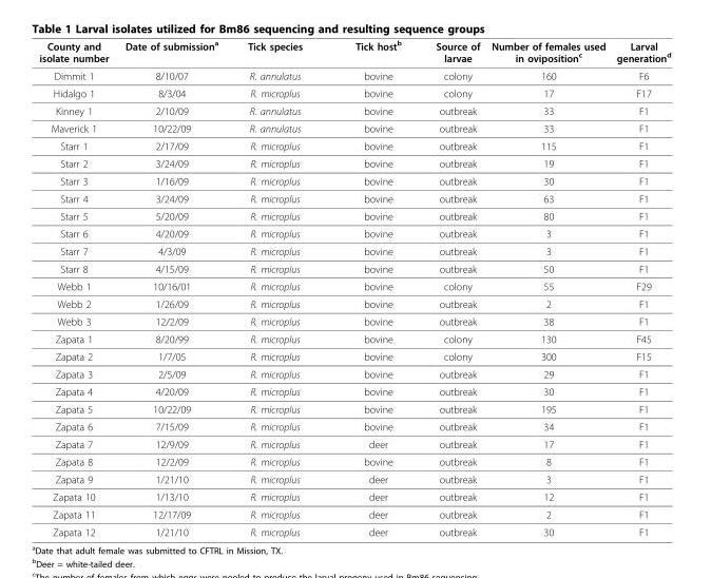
<table><thead><tr><td>County and isolate number</td><td>Date of submission<sup>a</sup></td><td>Tick species</td><td>Tick host<sup>b</sup></td><td>Source of larvae</td><td>Number of females used in oviposition<sup>c</sup></td><td>Larval generation<sup>d</sup></td></tr></thead><tbody><tr><td>Dimmit 1</td><td>8/10/07</td><td>R. annulatus</td><td>bovine</td><td>colony</td><td>160</td><td>F6</td></tr><tr><td>Hidalgo 1</td><td>8/3/04</td><td>R. microplus</td><td>bovine</td><td>colony</td><td>17</td><td>F17</td></tr><tr><td>Kinney 1</td><td>2/10/09</td><td>R. annulatus</td><td>bovine</td><td>outbreak</td><td>33</td><td>F1</td></tr><tr><td>Maverick 1</td><td>10/22/09</td><td>R. annulatus</td><td>bovine</td><td>outbreak</td><td>33</td><td>F1</td></tr><tr><td>Starr 1</td><td>2/17/09</td><td>R. microplus</td><td>bovine</td><td>outbreak</td><td>115</td><td>F1</td></tr><tr><td>Starr 2</td><td>3/24/09</td><td>R. microplus</td><td>bovine</td><td>outbreak</td><td>19</td><td>F1</td></tr><tr><td>Starr 3</td><td>1/16/09</td><td>R. microplus</td><td>bovine</td><td>outbreak</td><td>30</td><td>F1</td></tr><tr><td>Starr 4</td><td>3/24/09</td><td>R. microplus</td><td>bovine</td><td>outbreak</td><td>63</td><td>F1</td></tr><tr><td>Starr 5</td><td>5/20/09</td><td>R. microplus</td><td>bovine</td><td>outbreak</td><td>80</td><td>F1</td></tr><tr><td>Starr 6</td><td>4/20/09</td><td>R. microplus</td><td>bovine</td><td>outbreak</td><td>3</td><td>F1</td></tr><tr><td>Starr 7</td><td>4/3/09</td><td>R. microplus</td><td>bovine</td><td>outbreak</td><td>3</td><td>F1</td></tr><tr><td>Starr 8</td><td>4/15/09</td><td>R. microplus</td><td>bovine</td><td>outbreak</td><td>50</td><td>F1</td></tr><tr><td>Webb 1</td><td>10/16/01</td><td>R. microplus</td><td>bovine</td><td>colony</td><td>55</td><td>F29</td></tr><tr><td>Webb 2</td><td>1/26/09</td><td>R. microplus</td><td>bovine</td><td>outbreak</td><td>2</td><td>F1</td></tr><tr><td>Webb 3</td><td>12/2/09</td><td>R. microplus</td><td>bovine</td><td>outbreak</td><td>38</td><td>F1</td></tr><tr><td>Zapata 1</td><td>8/20/99</td><td>R. microplus</td><td>bovine</td><td>colony</td><td>130</td><td>F45</td></tr><tr><td>Zapata 2</td><td>1/7/05</td><td>R. microplus</td><td>bovine</td><td>colony</td><td>300</td><td>F15</td></tr><tr><td>Zapata 3</td><td>2/5/09</td><td>R. microplus</td><td>bovine</td><td>outbreak</td><td>29</td><td>F1</td></tr><tr><td>Zapata 4</td><td>4/20/09</td><td>R. microplus</td><td>bovine</td><td>outbreak</td><td>30</td><td>F1</td></tr><tr><td>Zapata 5</td><td>10/22/09</td><td>R. microplus</td><td>bovine</td><td>outbreak</td><td>195</td><td>F1</td></tr><tr><td>Zapata 6</td><td>7/15/09</td><td>R. microplus</td><td>bovine</td><td>outbreak</td><td>34</td><td>F1</td></tr><tr><td>Zapata 7</td><td>12/9/09</td><td>R. microplus</td><td>deer</td><td>outbreak</td><td>17</td><td>F1</td></tr><tr><td>Zapata 8</td><td>12/2/09</td><td>R. microplus</td><td>bovine</td><td>outbreak</td><td>8</td><td>F1</td></tr><tr><td>Zapata 9</td><td>1/21/10</td><td>R. microplus</td><td>deer</td><td>outbreak</td><td>3</td><td>F1</td></tr><tr><td>Zapata 10</td><td>1/13/10</td><td>R. microplus</td><td>deer</td><td>outbreak</td><td>12</td><td>F1</td></tr><tr><td>Zapata 11</td><td>12/17/09</td><td>R. microplus</td><td>deer</td><td>outbreak</td><td>2</td><td>F1</td></tr><tr><td>Zapata 12</td><td>1/21/10</td><td>R. microplus</td><td>deer</td><td>outbreak</td><td>30</td><td>F1</td></tr></tbody></table>